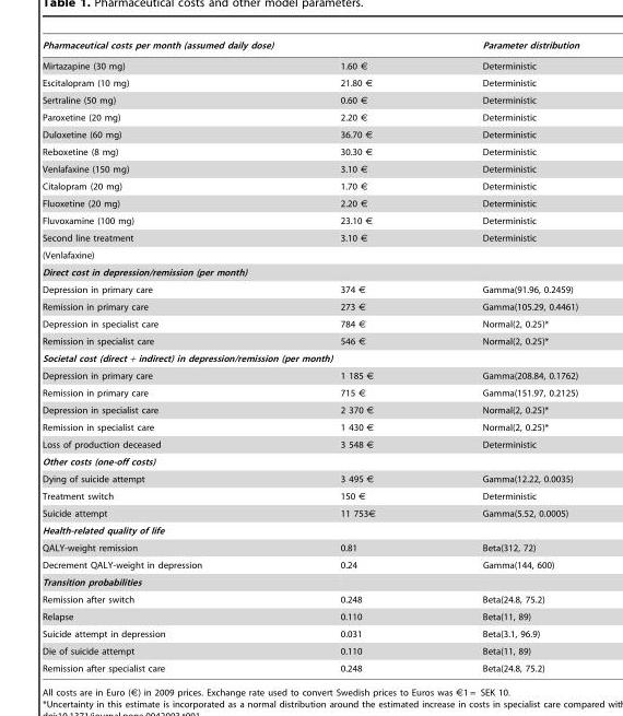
<table><thead><tr><td>Pharmaceutical costs per month (assumed daily dose)</td><td></td><td>Parameter distribution</td></tr></thead><tbody><tr><td>Mirtazapine (30 mg)</td><td>1.60 €</td><td>Deterministic</td></tr><tr><td>Escitalopram (10 mg)</td><td>21.80 €</td><td>Deterministic</td></tr><tr><td>Sertraline (50 mg)</td><td>0.60 €</td><td>Deterministic</td></tr><tr><td>Paroxetine (20 mg)</td><td>2.20 €</td><td>Deterministic</td></tr><tr><td>Duloxetine (60 mg)</td><td>36.70 €</td><td>Deterministic</td></tr><tr><td>Reboxetine (8 mg)</td><td>30.30 €</td><td>Deterministic</td></tr><tr><td>Venlafaxine (150 mg)</td><td>3.10 €</td><td>Deterministic</td></tr><tr><td>Citalopram (20 mg)</td><td>1.70 €</td><td>Deterministic</td></tr><tr><td>Fluoxetine (20 mg)</td><td>2.20 €</td><td>Deterministic</td></tr><tr><td>Fluvoxamine (100 mg)</td><td>23.10 €</td><td>Deterministic</td></tr><tr><td>Second line treatment</td><td>3.10 €</td><td>Deterministic</td></tr><tr><td colspan="3">(Venlafaxine)</td></tr><tr><td colspan="3">Direct cost in depression/remission (per month)</td></tr><tr><td>Depression in primary care</td><td>374 €</td><td>Gamma(91.96, 0.2459)</td></tr><tr><td>Remission in primary care</td><td>273 €</td><td>Gamma(105.29, 0.4461)</td></tr><tr><td>Depression in specialist care</td><td>784 €</td><td>Normal(2, 0.25)*</td></tr><tr><td>Remission in specialist care</td><td>546 €</td><td>Normal(2, 0.25)*</td></tr><tr><td colspan="3">Societal cost (direct + indirect) in depression/remission (per month)</td></tr><tr><td>Depression in primary care</td><td>1 185 €</td><td>Gamma(208.84, 0.1762)</td></tr><tr><td>Remission in primary care</td><td>715 €</td><td>Gamma(151.97, 0.2125)</td></tr><tr><td>Depression in specialist care</td><td>2 370 €</td><td>Normal(2, 0.25)*</td></tr><tr><td>Remission in specialist care</td><td>1 430 €</td><td>Normal(2, 0.25)*</td></tr><tr><td>Loss of production deceased</td><td>3 548 €</td><td>Deterministic</td></tr><tr><td colspan="3">Other costs (one-off costs)</td></tr><tr><td>Dying of suicide attempt</td><td>3 495 €</td><td>Gamma(12.22, 0.0035)</td></tr><tr><td>Treatment switch</td><td>150 €</td><td>Deterministic</td></tr><tr><td>Suicide attempt</td><td>11 753€</td><td>Gamma(5.52, 0.0005)</td></tr><tr><td colspan="3">Health-related quality of life</td></tr><tr><td>QALY-weight remission</td><td>0.81</td><td>Beta(312, 72)</td></tr><tr><td>Decrement QALY-weight in depression</td><td>0.24</td><td>Gamma(144, 600)</td></tr><tr><td colspan="3">Transition probabilities</td></tr><tr><td>Remission after switch</td><td>0.248</td><td>Beta(24.8, 75.2)</td></tr><tr><td>Relapse</td><td>0.110</td><td>Beta(11, 89)</td></tr><tr><td>Suicide attempt in depression</td><td>0.031</td><td>Beta(3.1, 96.9)</td></tr><tr><td>Die of suicide attempt</td><td>0.110</td><td>Beta(11, 89)</td></tr><tr><td>Remission after specialist care</td><td>0.248</td><td>Beta(24.8, 75.2)</td></tr></tbody></table>